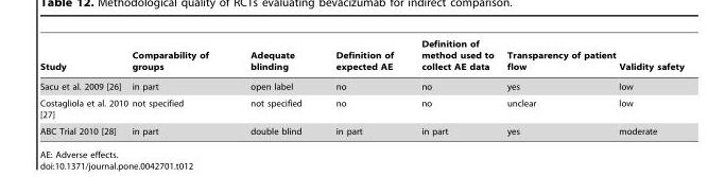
<table><thead><tr><td>Study</td><td>Comparability of groups</td><td>Adequate blinding</td><td>Definition of expected AE</td><td>Definition of method used to collect AE data</td><td>Transparency of patient flow</td><td>Validity safety</td></tr></thead><tbody><tr><td>Sacu et al. 2009 [26]</td><td>in part</td><td>open label</td><td>no</td><td>no</td><td>yes</td><td>low</td></tr><tr><td>Costagliola et al. 2010 [27]</td><td>not specified</td><td>not specified</td><td>no</td><td>no</td><td>unclear</td><td>low</td></tr><tr><td>ABC Trial 2010 [28]</td><td>in part</td><td>double blind</td><td>in part</td><td>in part</td><td>yes</td><td>moderate</td></tr></tbody></table>